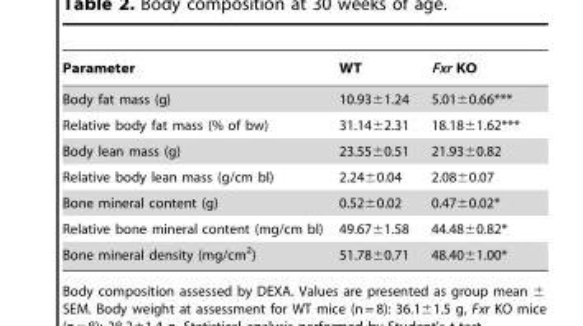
<table><thead><tr><td>Parameter</td><td>WT</td><td>Fxr KO</td></tr></thead><tbody><tr><td>Body fat mass (g)</td><td>10.93±1.24</td><td>5.01±0.66***</td></tr><tr><td>Relative body fat mass (% of bw)</td><td>31.14±2.31</td><td>18.18±1.62***</td></tr><tr><td>Body lean mass (g)</td><td>23.55±0.51</td><td>21.93±0.82</td></tr><tr><td>Relative body lean mass (g/cm bl)</td><td>2.24±0.04</td><td>2.08±0.07</td></tr><tr><td>Bone mineral content (g)</td><td>0.52±0.02</td><td>0.47±0.02*</td></tr><tr><td>Relative bone mineral content (mg/cm bl)</td><td>49.67±1.58</td><td>44.48±0.82*</td></tr><tr><td>Bone mineral density (mg/cm<sup>2</sup>)</td><td>51.78±0.71</td><td>48.40±1.00*</td></tr></tbody></table>